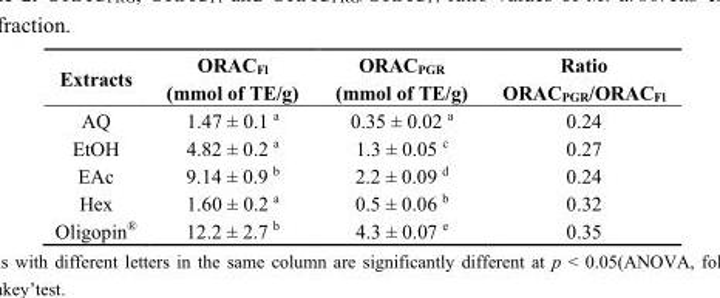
<table><thead><tr><td>Extracts</td><td>ORAC<sub>Fl</sub> (mmol of TE/g)</td><td>ORAC<sub>PGR</sub> (mmol of TE/g)</td><td>Ratio ORAC<sub>PGR</sub>/ORAC<sub>Fl</sub></td></tr></thead><tbody><tr><td>AQ</td><td>1.47 ± 0.1 <sup>a</sup></td><td>0.35 ± 0.02 <sup>a</sup></td><td>0.24</td></tr><tr><td>EtOH</td><td>4.82 ± 0.2 <sup>a</sup></td><td>1.3 ± 0.05 <sup>c</sup></td><td>0.27</td></tr><tr><td>EAc</td><td>9.14 ± 0.9 <sup>b</sup></td><td>2.2 ± 0.09 <sup>d</sup></td><td>0.24</td></tr><tr><td>Hex</td><td>1.60 ± 0.2 <sup>a</sup></td><td>0.5 ± 0.06 <sup>b</sup></td><td>0.32</td></tr><tr><td>Oligopin<sup>®</sup></td><td>12.2 ± 2.7 <sup>b</sup></td><td>4.3 ± 0.07 <sup>e</sup></td><td>0.35</td></tr></tbody></table>